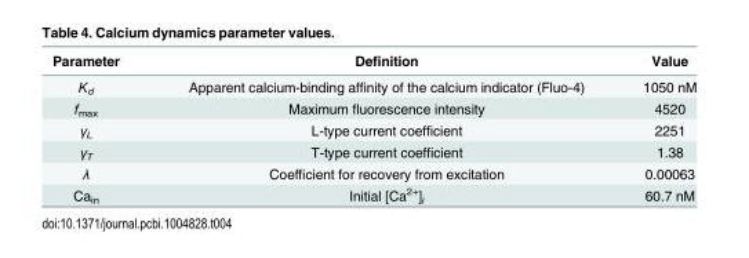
<table><thead><tr><td>Parameter</td><td>Definition</td><td>Value</td></tr></thead><tbody><tr><td>K<sub>d</sub></td><td>Apparent calcium-binding affinity of the calcium indicator (Fluo-4)</td><td>1050 nM</td></tr><tr><td>f<sub>max</sub></td><td>Maximum fluorescence intensity</td><td>4520</td></tr><tr><td>γ<sub>L</sub></td><td>L-type current coefficient</td><td>2251</td></tr><tr><td>γ<sub>T</sub></td><td>T-type current coefficient</td><td>1.38</td></tr><tr><td>λ</td><td>Coefficient for recovery from excitation</td><td>0.00063</td></tr><tr><td>Ca<sub>in</sub></td><td>Initial [Ca<sup>2+</sup>]<sub>i</sub></td><td>60.7 nM</td></tr></tbody></table>